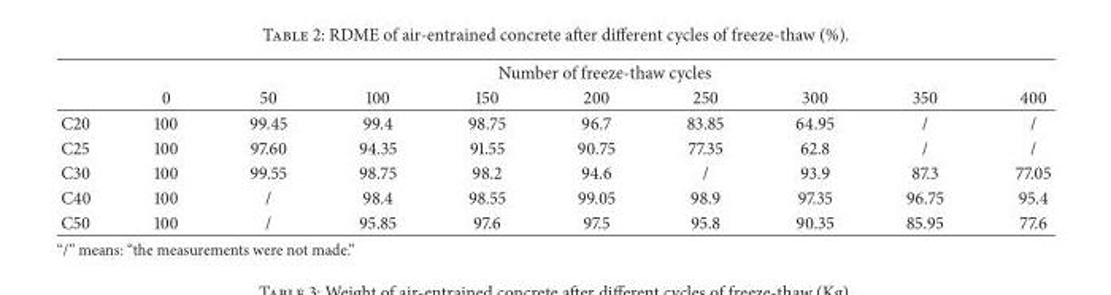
<table><thead><tr><td rowspan="2"></td><td colspan="9">Number of freeze-thaw cycles</td></tr><tr><td>0</td><td>50</td><td>100</td><td>150</td><td>200</td><td>250</td><td>300</td><td>350</td><td>400</td></tr></thead><tbody><tr><td>C20</td><td>100</td><td>99.45</td><td>99.4</td><td>98.75</td><td>96.7</td><td>83.85</td><td>64.95</td><td>/</td><td>/</td></tr><tr><td>C25</td><td>100</td><td>97.60</td><td>94.35</td><td>91.55</td><td>90.75</td><td>77.35</td><td>62.8</td><td>/</td><td>/</td></tr><tr><td>C30</td><td>100</td><td>99.55</td><td>98.75</td><td>98.2</td><td>94.6</td><td>/</td><td>93.9</td><td>87.3</td><td>77.05</td></tr><tr><td>C40</td><td>100</td><td>/</td><td>98.4</td><td>98.55</td><td>99.05</td><td>98.9</td><td>97.35</td><td>96.75</td><td>95.4</td></tr><tr><td>C50</td><td>100</td><td>/</td><td>95.85</td><td>97.6</td><td>97.5</td><td>95.8</td><td>90.35</td><td>85.95</td><td>77.6</td></tr></tbody></table>